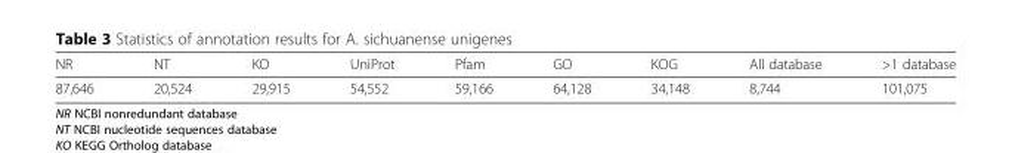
<table><thead><tr><td>NR</td><td>NT</td><td>KO</td><td>UniProt</td><td>Pfam</td><td>GO</td><td>KOG</td><td>All database</td><td>&gt;1 database</td></tr></thead><tbody><tr><td>87,646</td><td>20,524</td><td>29,915</td><td>54,552</td><td>59,166</td><td>64,128</td><td>34,148</td><td>8,744</td><td>101,075</td></tr></tbody></table>